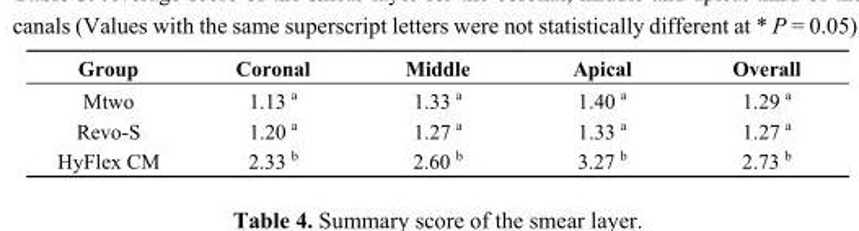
<table><thead><tr><td>Group</td><td>Coronal</td><td>Middle</td><td>Apical</td><td>Overall</td></tr></thead><tbody><tr><td>Mtwo</td><td>1.13 <sup>a</sup></td><td>1.33 <sup>a</sup></td><td>1.40 <sup>a</sup></td><td>1.29 <sup>a</sup></td></tr><tr><td>Revo-S</td><td>1.20 <sup>a</sup></td><td>1.27 <sup>a</sup></td><td>1.33 <sup>a</sup></td><td>1.27 <sup>a</sup></td></tr><tr><td>HyFlex CM</td><td>2.33 <sup>b</sup></td><td>2.60 <sup>b</sup></td><td>3.27 <sup>b</sup></td><td>2.73 <sup>b</sup></td></tr></tbody></table>